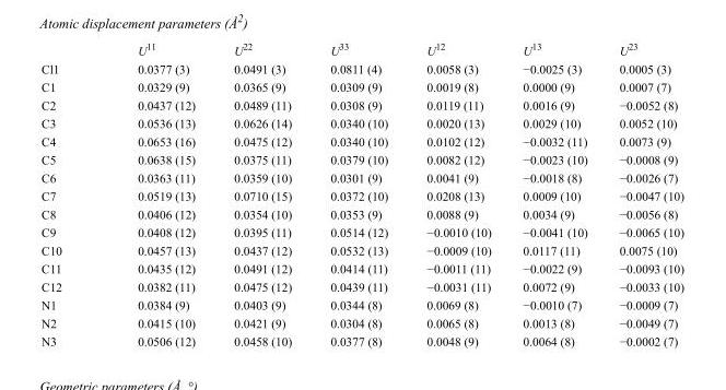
<table><thead><tr><td></td><td>U<sup>11</sup></td><td>U<sup>22</sup></td><td>U<sup>33</sup></td><td>U<sup>12</sup></td><td>U<sup>13</sup></td><td>U<sup>23</sup></td></tr></thead><tbody><tr><td>Cl1</td><td>0.0377 (3)</td><td>0.0491 (3)</td><td>0.0811 (4)</td><td>0.0058 (3)</td><td>−0.0025 (3)</td><td>0.0005 (3)</td></tr><tr><td>C1</td><td>0.0329 (9)</td><td>0.0365 (9)</td><td>0.0309 (9)</td><td>0.0019 (8)</td><td>0.0000 (9)</td><td>0.0007 (7)</td></tr><tr><td>C2</td><td>0.0437 (12)</td><td>0.0489 (11)</td><td>0.0308 (9)</td><td>0.0119 (11)</td><td>0.0016 (9)</td><td>−0.0052 (8)</td></tr><tr><td>C3</td><td>0.0536 (13)</td><td>0.0626 (14)</td><td>0.0340 (10)</td><td>0.0020 (13)</td><td>0.0029 (10)</td><td>0.0052 (10)</td></tr><tr><td>C4</td><td>0.0653 (16)</td><td>0.0475 (12)</td><td>0.0340 (10)</td><td>0.0102 (12)</td><td>−0.0032 (11)</td><td>0.0073 (9)</td></tr><tr><td>C5</td><td>0.0638 (15)</td><td>0.0375 (11)</td><td>0.0379 (10)</td><td>0.0082 (12)</td><td>−0.0023 (10)</td><td>−0.0008 (9)</td></tr><tr><td>C6</td><td>0.0363 (11)</td><td>0.0359 (10)</td><td>0.0301 (9)</td><td>0.0041 (9)</td><td>−0.0018 (8)</td><td>−0.0026 (7)</td></tr><tr><td>C7</td><td>0.0519 (13)</td><td>0.0710 (15)</td><td>0.0372 (10)</td><td>0.0208 (13)</td><td>0.0009 (10)</td><td>−0.0047 (10)</td></tr><tr><td>C8</td><td>0.0406 (12)</td><td>0.0354 (10)</td><td>0.0353 (9)</td><td>0.0088 (9)</td><td>0.0034 (9)</td><td>−0.0056 (8)</td></tr><tr><td>C9</td><td>0.0408 (12)</td><td>0.0395 (11)</td><td>0.0514 (12)</td><td>−0.0010 (10)</td><td>−0.0041 (10)</td><td>−0.0065 (10)</td></tr><tr><td>C10</td><td>0.0457 (13)</td><td>0.0437 (12)</td><td>0.0532 (13)</td><td>−0.0009 (10)</td><td>0.0117 (11)</td><td>0.0075 (10)</td></tr><tr><td>C11</td><td>0.0435 (12)</td><td>0.0491 (12)</td><td>0.0414 (11)</td><td>−0.0011 (11)</td><td>−0.0022 (9)</td><td>−0.0093 (10)</td></tr><tr><td>C12</td><td>0.0382 (11)</td><td>0.0475 (12)</td><td>0.0439 (11)</td><td>−0.0031 (11)</td><td>0.0072 (9)</td><td>−0.0033 (10)</td></tr><tr><td>N1</td><td>0.0384 (9)</td><td>0.0403 (9)</td><td>0.0344 (8)</td><td>0.0069 (8)</td><td>−0.0010 (7)</td><td>−0.0009 (7)</td></tr><tr><td>N2</td><td>0.0415 (10)</td><td>0.0421 (9)</td><td>0.0304 (8)</td><td>0.0065 (8)</td><td>0.0013 (8)</td><td>−0.0049 (7)</td></tr><tr><td>N3</td><td>0.0506 (12)</td><td>0.0458 (10)</td><td>0.0377 (8)</td><td>0.0048 (9)</td><td>0.0064 (8)</td><td>−0.0002 (7)</td></tr></tbody></table>